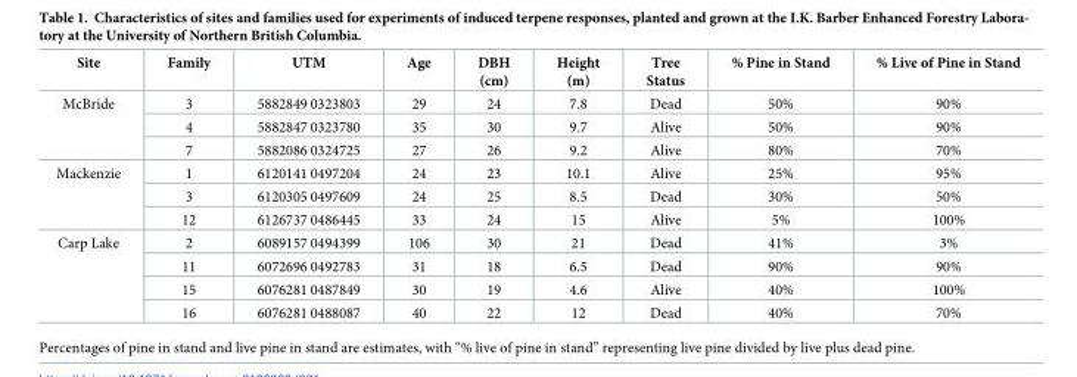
<table><thead><tr><td>Site</td><td>Family</td><td>UTM</td><td>Age</td><td>DBH (cm)</td><td>Height (m)</td><td>Tree Status</td><td>% Pine in Stand</td><td>% Live of Pine in Stand</td></tr></thead><tbody><tr><td rowspan="3">McBride</td><td>3</td><td>5882849 0323803</td><td>29</td><td>24</td><td>7.8</td><td>Dead</td><td>50%</td><td>90%</td></tr><tr><td>4</td><td>5882847 0323780</td><td>35</td><td>30</td><td>9.7</td><td>Alive</td><td>50%</td><td>90%</td></tr><tr><td>7</td><td>5882086 0324725</td><td>27</td><td>26</td><td>9.2</td><td>Alive</td><td>80%</td><td>70%</td></tr><tr><td rowspan="3">Mackenzie</td><td>1</td><td>6120141 0497204</td><td>24</td><td>23</td><td>10.1</td><td>Alive</td><td>25%</td><td>95%</td></tr><tr><td>3</td><td>6120305 0497609</td><td>24</td><td>25</td><td>8.5</td><td>Dead</td><td>30%</td><td>50%</td></tr><tr><td>12</td><td>6126737 0486445</td><td>33</td><td>24</td><td>15</td><td>Alive</td><td>5%</td><td>100%</td></tr><tr><td rowspan="4">Carp Lake</td><td>2</td><td>6089157 0494399</td><td>106</td><td>30</td><td>21</td><td>Dead</td><td>41%</td><td>3%</td></tr><tr><td>11</td><td>6072696 0492783</td><td>31</td><td>18</td><td>6.5</td><td>Dead</td><td>90%</td><td>90%</td></tr><tr><td>15</td><td>6076281 0487849</td><td>30</td><td>19</td><td>4.6</td><td>Alive</td><td>40%</td><td>100%</td></tr><tr><td>16</td><td>6076281 0488087</td><td>40</td><td>22</td><td>12</td><td>Dead</td><td>40%</td><td>70%</td></tr></tbody></table>